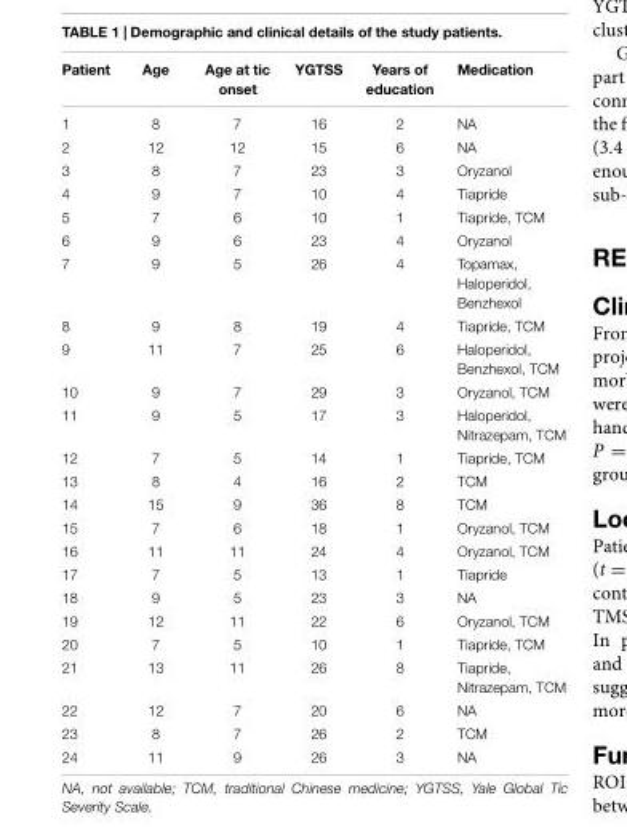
<table><thead><tr><td>Patient</td><td>Age</td><td>Age at tic onset</td><td>YGTSS</td><td>Years of education</td><td>Medication</td></tr></thead><tbody><tr><td>1</td><td>8</td><td>7</td><td>16</td><td>2</td><td>NA</td></tr><tr><td>2</td><td>12</td><td>12</td><td>15</td><td>6</td><td>NA</td></tr><tr><td>3</td><td>8</td><td>7</td><td>23</td><td>3</td><td>Oryzanol</td></tr><tr><td>4</td><td>9</td><td>7</td><td>10</td><td>4</td><td>Tiapride</td></tr><tr><td>5</td><td>7</td><td>6</td><td>10</td><td>1</td><td>Tiapride, TCM</td></tr><tr><td>6</td><td>9</td><td>6</td><td>23</td><td>4</td><td>Oryzanol</td></tr><tr><td>7</td><td>9</td><td>5</td><td>26</td><td>4</td><td>Topamax, Haloperidol, Benzhexol</td></tr><tr><td>8</td><td>9</td><td>8</td><td>19</td><td>4</td><td>Tiapride, TCM</td></tr><tr><td>9</td><td>11</td><td>7</td><td>25</td><td>6</td><td>Haloperidol, Benzhexol, TCM</td></tr><tr><td>10</td><td>9</td><td>7</td><td>29</td><td>3</td><td>Oryzanol, TCM</td></tr><tr><td>11</td><td>9</td><td>5</td><td>17</td><td>3</td><td>Haloperidol, Nitrazepam, TCM</td></tr><tr><td>12</td><td>7</td><td>5</td><td>14</td><td>1</td><td>Tiapride, TCM</td></tr><tr><td>13</td><td>8</td><td>4</td><td>16</td><td>2</td><td>TCM</td></tr><tr><td>14</td><td>15</td><td>9</td><td>36</td><td>8</td><td>TCM</td></tr><tr><td>15</td><td>7</td><td>6</td><td>18</td><td>1</td><td>Oryzanol, TCM</td></tr><tr><td>16</td><td>11</td><td>11</td><td>24</td><td>4</td><td>Oryzanol, TCM</td></tr><tr><td>17</td><td>7</td><td>5</td><td>13</td><td>1</td><td>Tiapride</td></tr><tr><td>18</td><td>9</td><td>5</td><td>23</td><td>3</td><td>NA</td></tr><tr><td>19</td><td>12</td><td>11</td><td>22</td><td>6</td><td>Oryzanol, TCM</td></tr><tr><td>20</td><td>7</td><td>5</td><td>10</td><td>1</td><td>Tiapride, TCM</td></tr><tr><td>21</td><td>13</td><td>11</td><td>26</td><td>8</td><td>Tiapride, Nitrazepam, TCM</td></tr><tr><td>22</td><td>12</td><td>7</td><td>20</td><td>6</td><td>NA</td></tr><tr><td>23</td><td>8</td><td>7</td><td>26</td><td>2</td><td>TCM</td></tr><tr><td>24</td><td>11</td><td>9</td><td>26</td><td>3</td><td>NA</td></tr></tbody></table>